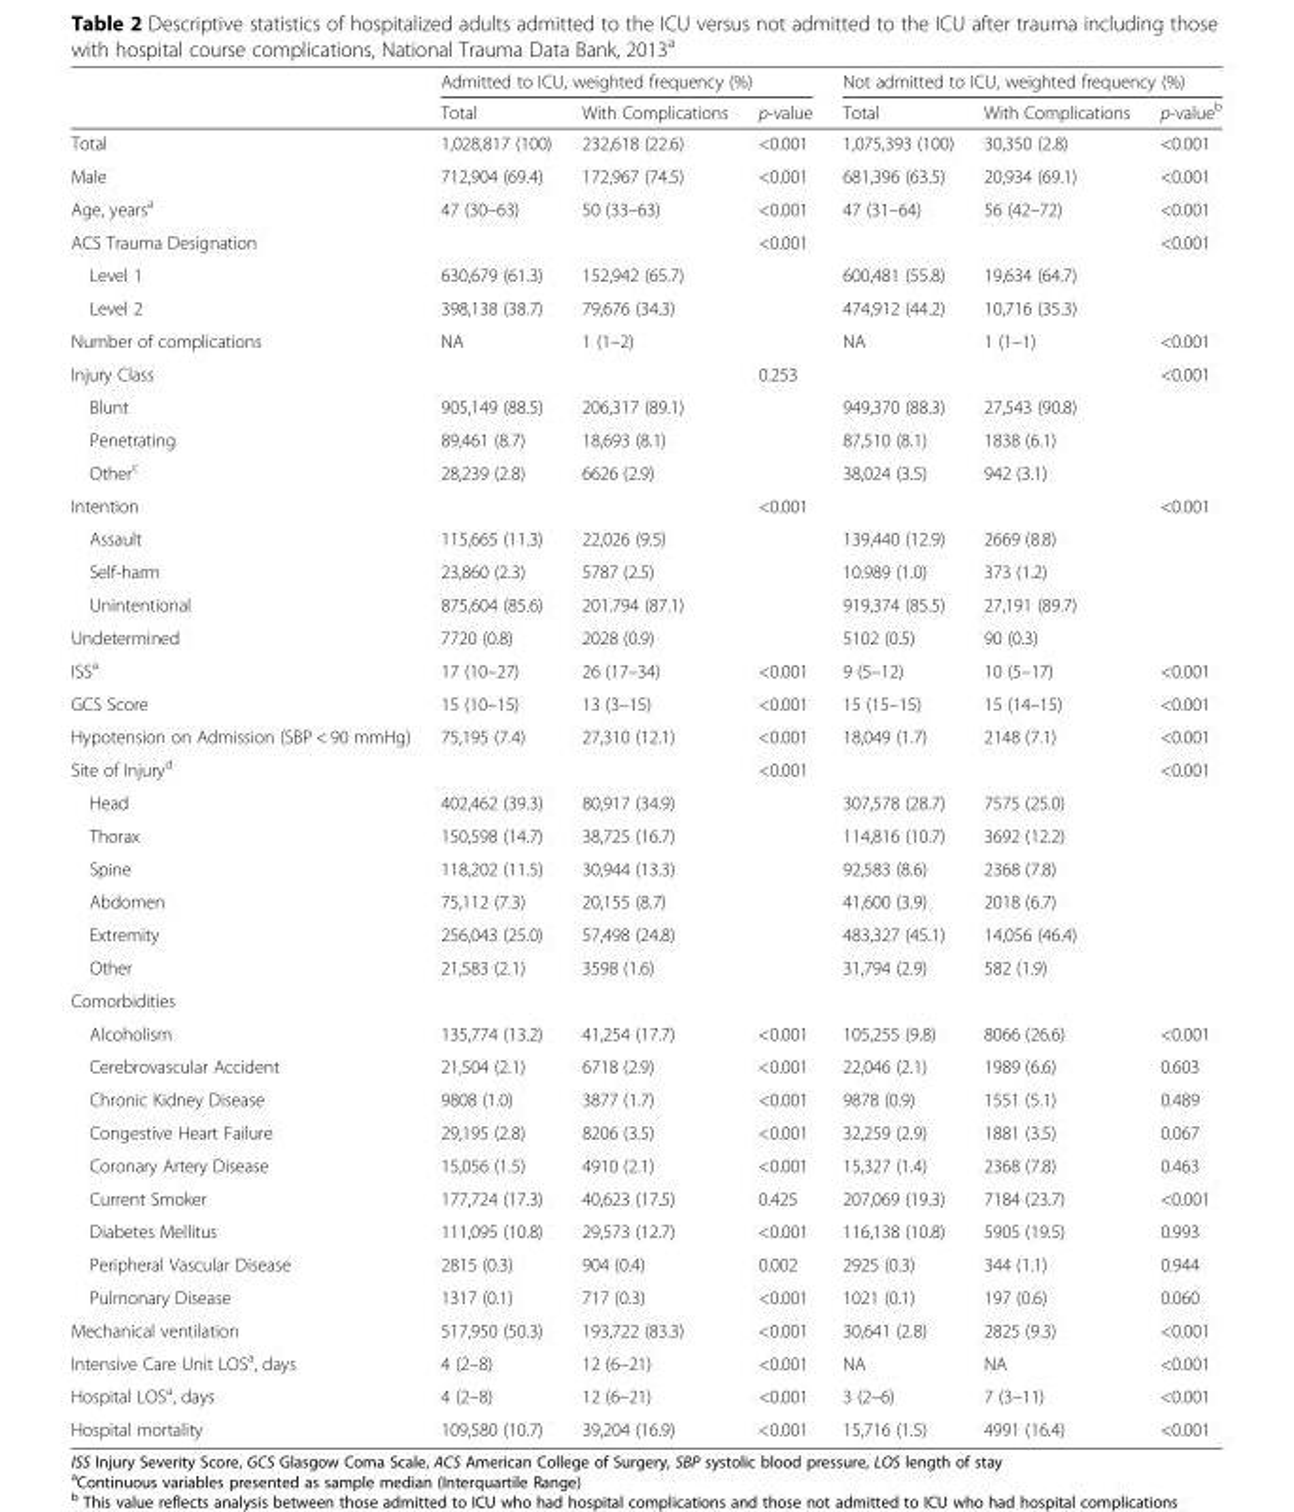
<table><thead><tr><td rowspan="2"></td><td colspan="3">Admitted to ICU, weighted frequency (%)</td><td colspan="3">Not admitted to ICU, weighted frequency (%)</td></tr><tr><td>Total</td><td>With Complications</td><td>p-value</td><td>Total</td><td>With Complications</td><td>p-value<sup>b</sup></td></tr></thead><tbody><tr><td>Total</td><td>1,028,817 (100)</td><td>232,618 (22.6)</td><td>&lt;0.001</td><td>1,075,393 (100)</td><td>30,350 (2.8)</td><td>&lt;0.001</td></tr><tr><td>Male</td><td>712,904 (69.4)</td><td>172,967 (74.5)</td><td>&lt;0.001</td><td>681,396 (63.5)</td><td>20,934 (69.1)</td><td>&lt;0.001</td></tr><tr><td>Age, years<sup>a</sup></td><td>47 (30–63)</td><td>50 (33–63)</td><td>&lt;0.001</td><td>47 (31–64)</td><td>56 (42–72)</td><td>&lt;0.001</td></tr><tr><td>ACS Trauma Designation</td><td></td><td></td><td>&lt;0.001</td><td></td><td></td><td>&lt;0.001</td></tr><tr><td>Level 1</td><td>630,679 (61.3)</td><td>152,942 (65.7)</td><td></td><td>600,481 (55.8)</td><td>19,634 (64.7)</td><td></td></tr><tr><td>Level 2</td><td>398,138 (38.7)</td><td>79,676 (34.3)</td><td></td><td>474,912 (44.2)</td><td>10,716 (35.3)</td><td></td></tr><tr><td>Number of complications</td><td>NA</td><td>1 (1–2)</td><td></td><td>NA</td><td>1 (1–1)</td><td>&lt;0.001</td></tr><tr><td>Injury Class</td><td></td><td></td><td>0.253</td><td></td><td></td><td>&lt;0.001</td></tr><tr><td>Blunt</td><td>905,149 (88.5)</td><td>206,317 (89.1)</td><td></td><td>949,370 (88.3)</td><td>27,543 (90.8)</td><td></td></tr><tr><td>Penetrating</td><td>89,461 (8.7)</td><td>18,693 (8.1)</td><td></td><td>87,510 (8.1)</td><td>1838 (6.1)</td><td></td></tr><tr><td>Other<sup>c</sup></td><td>28,239 (2.8)</td><td>6626 (2.9)</td><td></td><td>38,024 (3.5)</td><td>942 (3.1)</td><td></td></tr><tr><td>Intention</td><td></td><td></td><td>&lt;0.001</td><td></td><td></td><td>&lt;0.001</td></tr><tr><td>Assault</td><td>115,665 (11.3)</td><td>22,026 (9.5)</td><td></td><td>139,440 (12.9)</td><td>2669 (8.8)</td><td></td></tr><tr><td>Self-harm</td><td>23,860 (2.3)</td><td>5787 (2.5)</td><td></td><td>10.989 (1.0)</td><td>373 (1.2)</td><td></td></tr><tr><td>Unintentional</td><td>875,604 (85.6)</td><td>201.794 (87.1)</td><td></td><td>919,374 (85.5)</td><td>27,191 (89.7)</td><td></td></tr><tr><td>Undetermined</td><td>7720 (0.8)</td><td>2028 (0.9)</td><td></td><td>5102 (0.5)</td><td>90 (0.3)</td><td></td></tr><tr><td>ISS<sup>a</sup></td><td>17 (10–27)</td><td>26 (17–34)</td><td>&lt;0.001</td><td>9 (5–12)</td><td>10 (5–17)</td><td>&lt;0.001</td></tr><tr><td>GCS Score</td><td>15 (10–15)</td><td>13 (3–15)</td><td>&lt;0.001</td><td>15 (15–15)</td><td>15 (14–15)</td><td>&lt;0.001</td></tr><tr><td>Hypotension on Admission (SBP &lt; 90 mmHg)</td><td>75,195 (7.4)</td><td>27,310 (12.1)</td><td>&lt;0.001</td><td>18,049 (1.7)</td><td>2148 (7.1)</td><td>&lt;0.001</td></tr><tr><td>Site of Injury<sup>d</sup></td><td></td><td></td><td>&lt;0.001</td><td></td><td></td><td>&lt;0.001</td></tr><tr><td>Head</td><td>402,462 (39.3)</td><td>80,917 (34.9)</td><td></td><td>307,578 (28.7)</td><td>7575 (25.0)</td><td></td></tr><tr><td>Thorax</td><td>150,598 (14.7)</td><td>38,725 (16.7)</td><td></td><td>114,816 (10.7)</td><td>3692 (12.2)</td><td></td></tr><tr><td>Spine</td><td>118,202 (11.5)</td><td>30,944 (13.3)</td><td></td><td>92,583 (8.6)</td><td>2368 (7.8)</td><td></td></tr><tr><td>Abdomen</td><td>75,112 (7.3)</td><td>20,155 (8.7)</td><td></td><td>41,600 (3.9)</td><td>2018 (6.7)</td><td></td></tr><tr><td>Extremity</td><td>256,043 (25.0)</td><td>57,498 (24.8)</td><td></td><td>483,327 (45.1)</td><td>14,056 (46.4)</td><td></td></tr><tr><td>Other</td><td>21,583 (2.1)</td><td>3598 (1.6)</td><td></td><td>31,794 (2.9)</td><td>582 (1.9)</td><td></td></tr><tr><td colspan="7">Comorbidities</td></tr><tr><td>Alcoholism</td><td>135,774 (13.2)</td><td>41,254 (17.7)</td><td>&lt;0.001</td><td>105,255 (9.8)</td><td>8066 (26.6)</td><td>&lt;0.001</td></tr><tr><td>Cerebrovascular Accident</td><td>21,504 (2.1)</td><td>6718 (2.9)</td><td>&lt;0.001</td><td>22,046 (2.1)</td><td>1989 (6.6)</td><td>0.603</td></tr><tr><td>Chronic Kidney Disease</td><td>9808 (1.0)</td><td>3877 (1.7)</td><td>&lt;0.001</td><td>9878 (0.9)</td><td>1551 (5.1)</td><td>0.489</td></tr><tr><td>Congestive Heart Failure</td><td>29,195 (2.8)</td><td>8206 (3.5)</td><td>&lt;0.001</td><td>32,259 (2.9)</td><td>1881 (3.5)</td><td>0.067</td></tr><tr><td>Coronary Artery Disease</td><td>15,056 (1.5)</td><td>4910 (2.1)</td><td>&lt;0.001</td><td>15,327 (1.4)</td><td>2368 (7.8)</td><td>0.463</td></tr><tr><td>Current Smoker</td><td>177,724 (17.3)</td><td>40,623 (17.5)</td><td>0.425</td><td>207,069 (19.3)</td><td>7184 (23.7)</td><td>&lt;0.001</td></tr><tr><td>Diabetes Mellitus</td><td>111,095 (10.8)</td><td>29,573 (12.7)</td><td>&lt;0.001</td><td>116,138 (10.8)</td><td>5905 (19.5)</td><td>0.993</td></tr><tr><td>Peripheral Vascular Disease</td><td>2815 (0.3)</td><td>904 (0.4)</td><td>0.002</td><td>2925 (0.3)</td><td>344 (1.1)</td><td>0.944</td></tr><tr><td>Pulmonary Disease</td><td>1317 (0.1)</td><td>717 (0.3)</td><td>&lt;0.001</td><td>1021 (0.1)</td><td>197 (0.6)</td><td>0.060</td></tr><tr><td>Mechanical ventilation</td><td>517,950 (50.3)</td><td>193,722 (83.3)</td><td>&lt;0.001</td><td>30,641 (2.8)</td><td>2825 (9.3)</td><td>&lt;0.001</td></tr><tr><td>Intensive Care Unit LOS<sup>a</sup>, days</td><td>4 (2–8)</td><td>12 (6–21)</td><td>&lt;0.001</td><td>NA</td><td>NA</td><td>&lt;0.001</td></tr><tr><td>Hospital LOS<sup>a</sup>, days</td><td>4 (2–8)</td><td>12 (6–21)</td><td>&lt;0.001</td><td>3 (2–6)</td><td>7 (3–11)</td><td>&lt;0.001</td></tr><tr><td>Hospital mortality</td><td>109,580 (10.7)</td><td>39,204 (16.9)</td><td>&lt;0.001</td><td>15,716 (1.5)</td><td>4991 (16.4)</td><td>&lt;0.001</td></tr></tbody></table>